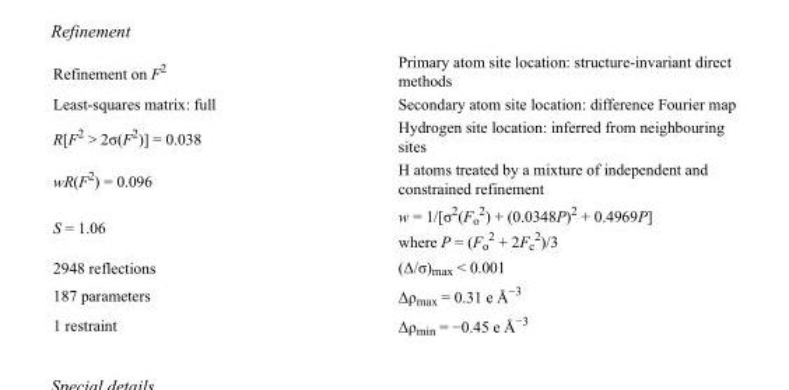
<table><tbody><tr><td>Refinement on F<sup>2</sup></td><td>Primary atom site location: structure-invariant direct methods</td></tr><tr><td>Least-squares matrix: full</td><td>Secondary atom site location: difference Fourier map</td></tr><tr><td>R[F<sup>2</sup> &gt; 2σ(F<sup>2</sup>)] = 0.038</td><td>Hydrogen site location: inferred from neighbouring sites</td></tr><tr><td>wR(F<sup>2</sup>) = 0.096</td><td>H atoms treated by a mixture of independent and constrained refinement</td></tr><tr><td>S = 1.06</td><td>w = 1/[σ<sup>2</sup>(F<sub>o</sub> <sup>2</sup>) + (0.0348P)<sup>2</sup> + 0.4969P] where P = (F<sub>o</sub> <sup>2</sup> + 2F<sub>c</sub> <sup>2</sup>)/3</td></tr><tr><td>2948 reflections</td><td>(Δ/σ)<sub>max</sub> &lt; 0.001</td></tr><tr><td>187 parameters</td><td>Δρ<sub>max</sub> = 0.31 e Å<sup>−3</sup></td></tr><tr><td>1 restraint</td><td>Δρ<sub>min</sub> = −0.45 e Å<sup>−3</sup></td></tr></tbody></table>